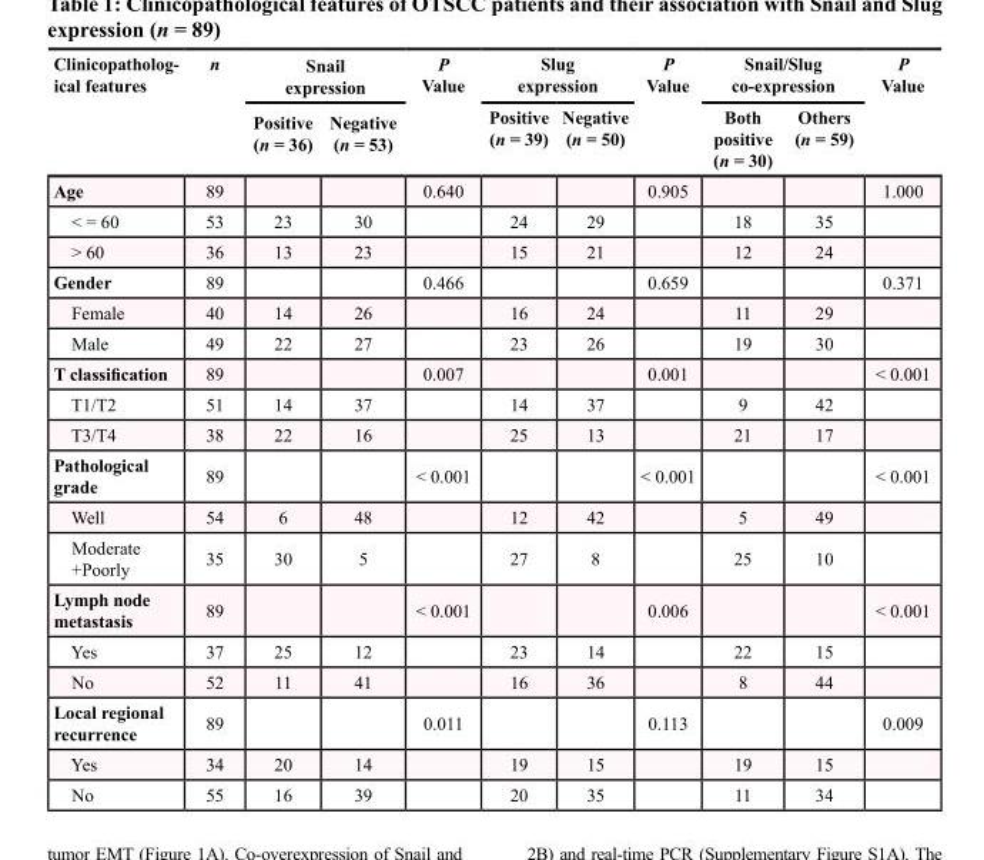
<table><thead><tr><td rowspan="2">Clinicopatholog- ical features</td><td rowspan="2">n</td><td colspan="2">Snail expression</td><td rowspan="2">P Value</td><td colspan="2">Slug expression</td><td rowspan="2">P Value</td><td colspan="2">Snail/Slug co-expression</td><td rowspan="2">P Value</td></tr><tr><td>Positive (n = 36)</td><td>Negative (n = 53)</td><td>Positive (n = 39)</td><td>Negative (n = 50)</td><td>Both positive (n = 30)</td><td>Others (n = 59)</td></tr></thead><tbody><tr><td>Age</td><td>89</td><td></td><td></td><td>0.640</td><td></td><td></td><td>0.905</td><td></td><td></td><td>1.000</td></tr><tr><td>&lt; = 60</td><td>53</td><td>23</td><td>30</td><td></td><td>24</td><td>29</td><td></td><td>18</td><td>35</td><td></td></tr><tr><td>&gt; 60</td><td>36</td><td>13</td><td>23</td><td></td><td>15</td><td>21</td><td></td><td>12</td><td>24</td><td></td></tr><tr><td>Gender</td><td>89</td><td></td><td></td><td>0.466</td><td></td><td></td><td>0.659</td><td></td><td></td><td>0.371</td></tr><tr><td>Female</td><td>40</td><td>14</td><td>26</td><td></td><td>16</td><td>24</td><td></td><td>11</td><td>29</td><td></td></tr><tr><td>Male</td><td>49</td><td>22</td><td>27</td><td></td><td>23</td><td>26</td><td></td><td>19</td><td>30</td><td></td></tr><tr><td>T classification</td><td>89</td><td></td><td></td><td>0.007</td><td></td><td></td><td>0.001</td><td></td><td></td><td>&lt; 0.001</td></tr><tr><td>T1/T2</td><td>51</td><td>14</td><td>37</td><td></td><td>14</td><td>37</td><td></td><td>9</td><td>42</td><td></td></tr><tr><td>T3/T4</td><td>38</td><td>22</td><td>16</td><td></td><td>25</td><td>13</td><td></td><td>21</td><td>17</td><td></td></tr><tr><td>Pathological grade</td><td>89</td><td></td><td></td><td>&lt; 0.001</td><td></td><td></td><td>&lt; 0.001</td><td></td><td></td><td>&lt; 0.001</td></tr><tr><td>Well</td><td>54</td><td>6</td><td>48</td><td></td><td>12</td><td>42</td><td></td><td>5</td><td>49</td><td></td></tr><tr><td>Moderate +Poorly</td><td>35</td><td>30</td><td>5</td><td></td><td>27</td><td>8</td><td></td><td>25</td><td>10</td><td></td></tr><tr><td>Lymph node metastasis</td><td>89</td><td></td><td></td><td>&lt; 0.001</td><td></td><td></td><td>0.006</td><td></td><td></td><td>&lt; 0.001</td></tr><tr><td>Yes</td><td>37</td><td>25</td><td>12</td><td></td><td>23</td><td>14</td><td></td><td>22</td><td>15</td><td></td></tr><tr><td>No</td><td>52</td><td>11</td><td>41</td><td></td><td>16</td><td>36</td><td></td><td>8</td><td>44</td><td></td></tr><tr><td>Local regional recurrence</td><td>89</td><td></td><td></td><td>0.011</td><td></td><td></td><td>0.113</td><td></td><td></td><td>0.009</td></tr><tr><td>Yes</td><td>34</td><td>20</td><td>14</td><td></td><td>19</td><td>15</td><td></td><td>19</td><td>15</td><td></td></tr><tr><td>No</td><td>55</td><td>16</td><td>39</td><td></td><td>20</td><td>35</td><td></td><td>11</td><td>34</td><td></td></tr></tbody></table>